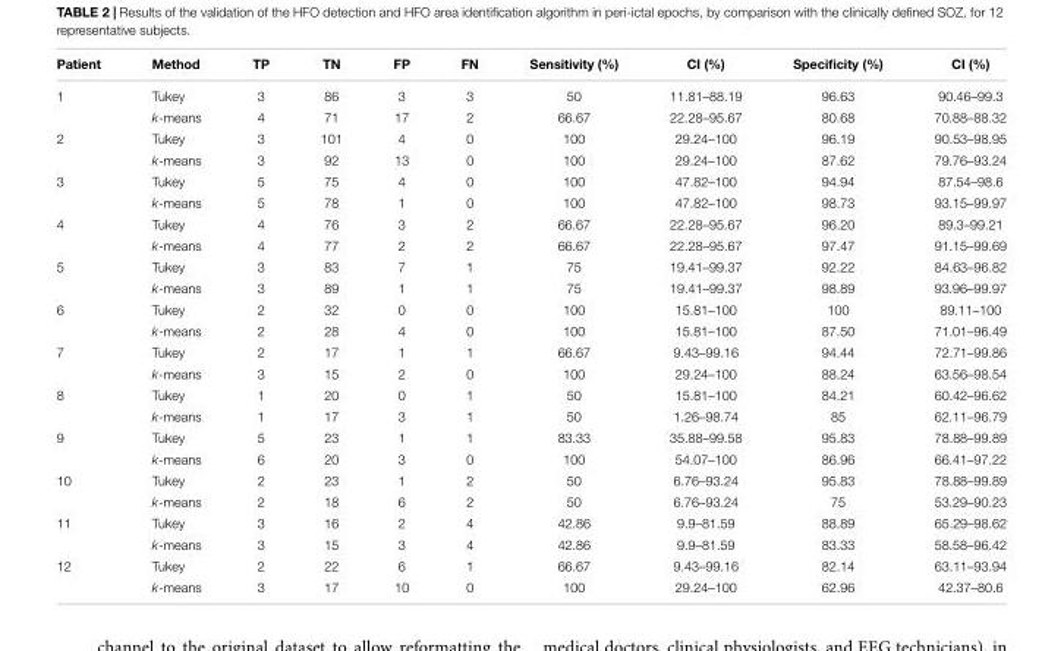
<table><thead><tr><td>Patient</td><td>Method</td><td>TP</td><td>TN</td><td>FP</td><td>FN</td><td>Sensitivity (%)</td><td>CI (%)</td><td>Specificity (%)</td><td>CI (%)</td></tr></thead><tbody><tr><td rowspan="2">1</td><td>Tukey</td><td>3</td><td>86</td><td>3</td><td>3</td><td>50</td><td>11.81–88.19</td><td>96.63</td><td>90.46–99.3</td></tr><tr><td>k-means</td><td>4</td><td>71</td><td>17</td><td>2</td><td>66.67</td><td>22.28–95.67</td><td>80.68</td><td>70.88–88.32</td></tr><tr><td rowspan="2">2</td><td>Tukey</td><td>3</td><td>101</td><td>4</td><td>0</td><td>100</td><td>29.24–100</td><td>96.19</td><td>90.53–98.95</td></tr><tr><td>k-means</td><td>3</td><td>92</td><td>13</td><td>0</td><td>100</td><td>29.24–100</td><td>87.62</td><td>79.76–93.24</td></tr><tr><td rowspan="2">3</td><td>Tukey</td><td>5</td><td>75</td><td>4</td><td>0</td><td>100</td><td>47.82–100</td><td>94.94</td><td>87.54–98.6</td></tr><tr><td>k-means</td><td>5</td><td>78</td><td>1</td><td>0</td><td>100</td><td>47.82–100</td><td>98.73</td><td>93.15–99.97</td></tr><tr><td rowspan="2">4</td><td>Tukey</td><td>4</td><td>76</td><td>3</td><td>2</td><td>66.67</td><td>22.28–95.67</td><td>96.20</td><td>89.3–99.21</td></tr><tr><td>k-means</td><td>4</td><td>77</td><td>2</td><td>2</td><td>66.67</td><td>22.28–95.67</td><td>97.47</td><td>91.15–99.69</td></tr><tr><td rowspan="2">5</td><td>Tukey</td><td>3</td><td>83</td><td>7</td><td>1</td><td>75</td><td>19.41–99.37</td><td>92.22</td><td>84.63–96.82</td></tr><tr><td>k-means</td><td>3</td><td>89</td><td>1</td><td>1</td><td>75</td><td>19.41–99.37</td><td>98.89</td><td>93.96–99.97</td></tr><tr><td rowspan="2">6</td><td>Tukey</td><td>2</td><td>32</td><td>0</td><td>0</td><td>100</td><td>15.81–100</td><td>100</td><td>89.11–100</td></tr><tr><td>k-means</td><td>2</td><td>28</td><td>4</td><td>0</td><td>100</td><td>15.81–100</td><td>87.50</td><td>71.01–96.49</td></tr><tr><td rowspan="2">7</td><td>Tukey</td><td>2</td><td>17</td><td>1</td><td>1</td><td>66.67</td><td>9.43–99.16</td><td>94.44</td><td>72.71–99.86</td></tr><tr><td>k-means</td><td>3</td><td>15</td><td>2</td><td>0</td><td>100</td><td>29.24–100</td><td>88.24</td><td>63.56–98.54</td></tr><tr><td rowspan="2">8</td><td>Tukey</td><td>1</td><td>20</td><td>0</td><td>1</td><td>50</td><td>15.81–100</td><td>84.21</td><td>60.42–96.62</td></tr><tr><td>k-means</td><td>1</td><td>17</td><td>3</td><td>1</td><td>50</td><td>1.26–98.74</td><td>85</td><td>62.11–96.79</td></tr><tr><td rowspan="2">9</td><td>Tukey</td><td>5</td><td>23</td><td>1</td><td>1</td><td>83.33</td><td>35.88–99.58</td><td>95.83</td><td>78.88–99.89</td></tr><tr><td>k-means</td><td>6</td><td>20</td><td>3</td><td>0</td><td>100</td><td>54.07–100</td><td>86.96</td><td>66.41–97.22</td></tr><tr><td rowspan="2">10</td><td>Tukey</td><td>2</td><td>23</td><td>1</td><td>2</td><td>50</td><td>6.76–93.24</td><td>95.83</td><td>78.88–99.89</td></tr><tr><td>k-means</td><td>2</td><td>18</td><td>6</td><td>2</td><td>50</td><td>6.76–93.24</td><td>75</td><td>53.29–90.23</td></tr><tr><td rowspan="2">11</td><td>Tukey</td><td>3</td><td>16</td><td>2</td><td>4</td><td>42.86</td><td>9.9–81.59</td><td>88.89</td><td>65.29–98.62</td></tr><tr><td>k-means</td><td>3</td><td>15</td><td>3</td><td>4</td><td>42.86</td><td>9.9–81.59</td><td>83.33</td><td>58.58–96.42</td></tr><tr><td rowspan="2">12</td><td>Tukey</td><td>2</td><td>22</td><td>6</td><td>1</td><td>66.67</td><td>9.43–99.16</td><td>82.14</td><td>63.11–93.94</td></tr><tr><td>k-means</td><td>3</td><td>17</td><td>10</td><td>0</td><td>100</td><td>29.24–100</td><td>62.96</td><td>42.37–80.6</td></tr></tbody></table>